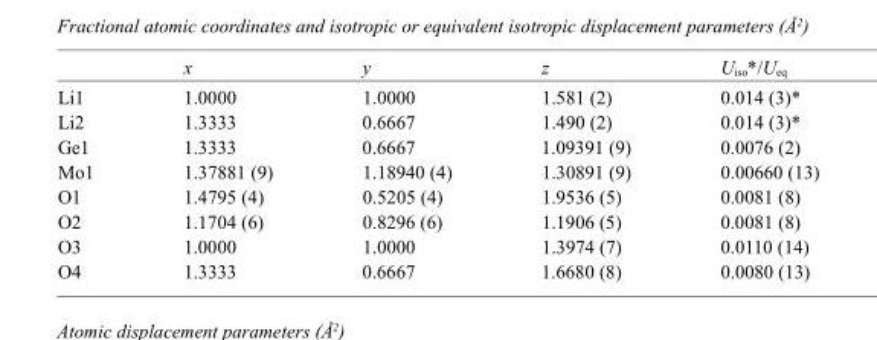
<table><thead><tr><td></td><td>x</td><td>y</td><td>z</td><td>U<sub>iso</sub>*/U<sub>eq</sub></td></tr></thead><tbody><tr><td>Li1</td><td>1.0000</td><td>1.0000</td><td>1.581 (2)</td><td>0.014 (3)*</td></tr><tr><td>Li2</td><td>1.3333</td><td>0.6667</td><td>1.490 (2)</td><td>0.014 (3)*</td></tr><tr><td>Ge1</td><td>1.3333</td><td>0.6667</td><td>1.09391 (9)</td><td>0.0076 (2)</td></tr><tr><td>Mo1</td><td>1.37881 (9)</td><td>1.18940 (4)</td><td>1.30891 (9)</td><td>0.00660 (13)</td></tr><tr><td>O1</td><td>1.4795 (4)</td><td>0.5205 (4)</td><td>1.9536 (5)</td><td>0.0081 (8)</td></tr><tr><td>O2</td><td>1.1704 (6)</td><td>0.8296 (6)</td><td>1.1906 (5)</td><td>0.0081 (8)</td></tr><tr><td>O3</td><td>1.0000</td><td>1.0000</td><td>1.3974 (7)</td><td>0.0110 (14)</td></tr><tr><td>O4</td><td>1.3333</td><td>0.6667</td><td>1.6680 (8)</td><td>0.0080 (13)</td></tr></tbody></table>